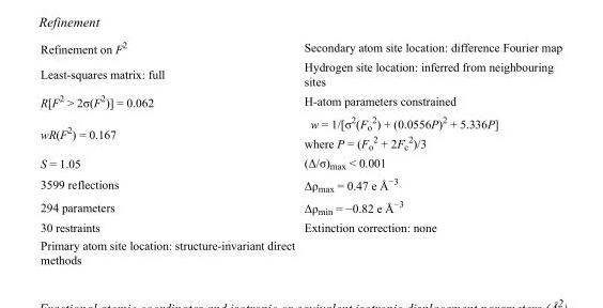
<table><tbody><tr><td>Refinement on F<sup>2</sup></td><td>Secondary atom site location: difference Fourier map</td></tr><tr><td>Least-squares matrix: full</td><td>Hydrogen site location: inferred from neighbouring sites</td></tr><tr><td>R[F<sup>2</sup> &gt; 2σ(F<sup>2</sup>)] = 0.062</td><td>H-atom parameters constrained</td></tr><tr><td>wR(F<sup>2</sup>) = 0.167</td><td>w = 1/[σ<sup>2</sup>(F<sub>o</sub> <sup>2</sup>) + (0.0556P)<sup>2</sup> + 5.336P] where P = (F<sub>o</sub> <sup>2</sup> + 2F<sub>c</sub> <sup>2</sup>)/3</td></tr><tr><td>S = 1.05</td><td>(Δ/σ)<sub>max</sub> &lt; 0.001</td></tr><tr><td>3599 reflections</td><td>Δρ<sub>max</sub> = 0.47 e Å<sup>−3</sup></td></tr><tr><td>294 parameters</td><td>Δρ<sub>min</sub> = −0.82 e Å<sup>−3</sup></td></tr><tr><td>30 restraints</td><td>Extinction correction: none</td></tr><tr><td>Primary atom site location: structure-invariant direct methods</td><td></td></tr></tbody></table>